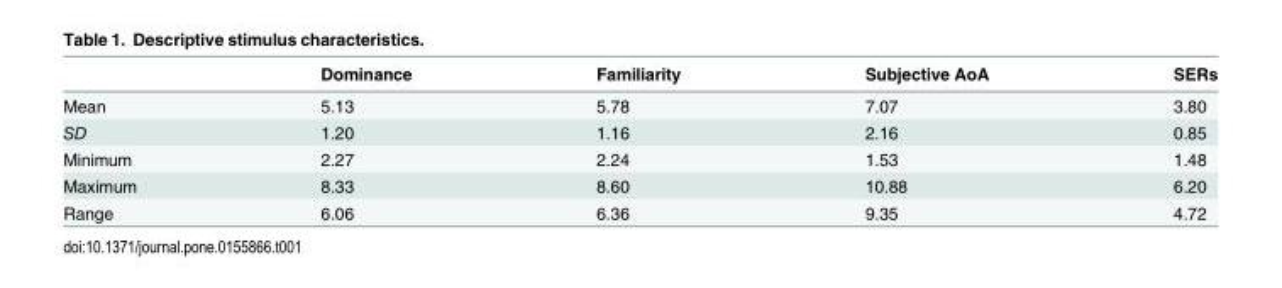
<table><thead><tr><td></td><td>Dominance</td><td>Familiarity</td><td>Subjective AoA</td><td>SERs</td></tr></thead><tbody><tr><td>Mean</td><td>5.13</td><td>5.78</td><td>7.07</td><td>3.80</td></tr><tr><td>SD</td><td>1.20</td><td>1.16</td><td>2.16</td><td>0.85</td></tr><tr><td>Minimum</td><td>2.27</td><td>2.24</td><td>1.53</td><td>1.48</td></tr><tr><td>Maximum</td><td>8.33</td><td>8.60</td><td>10.88</td><td>6.20</td></tr><tr><td>Range</td><td>6.06</td><td>6.36</td><td>9.35</td><td>4.72</td></tr></tbody></table>